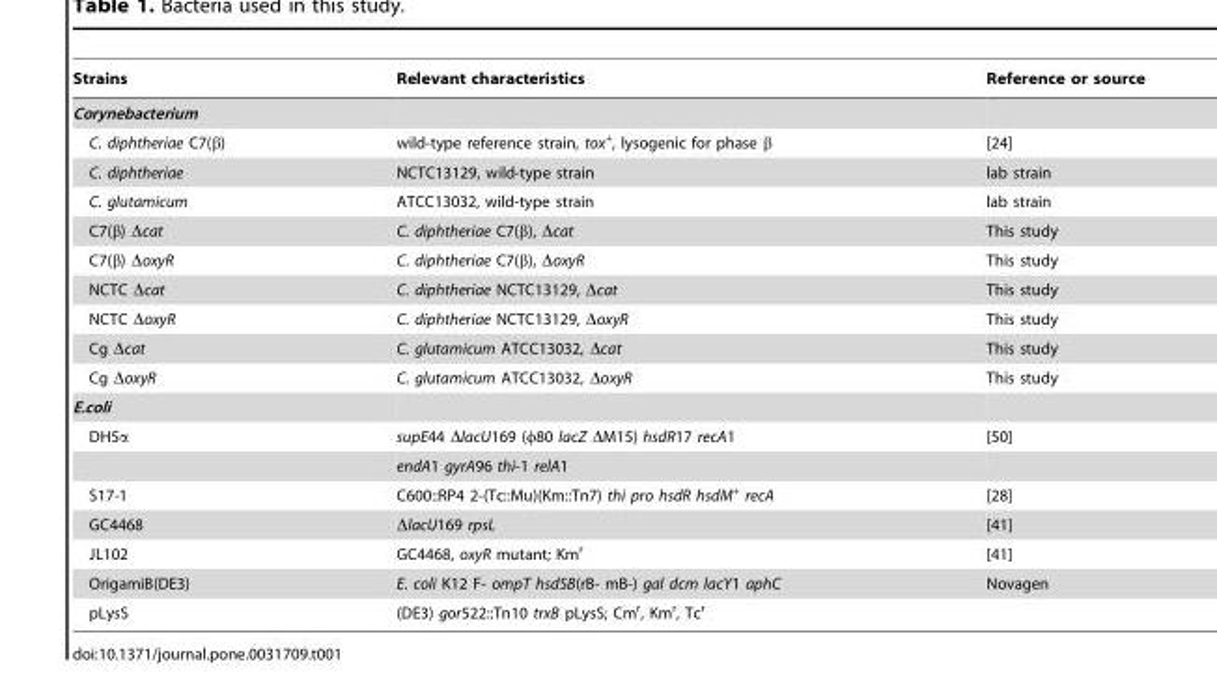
<table><thead><tr><td>Strains</td><td>Relevant characteristics</td><td>Reference or source</td></tr></thead><tbody><tr><td colspan="3">Corynebacterium</td></tr><tr><td>C. diphtheriae C7(β)</td><td>wild-type reference strain, tox<sup>+</sup>, lysogenic for phase β</td><td>[24]</td></tr><tr><td>C. diphtheriae</td><td>NCTC13129, wild-type strain</td><td>lab strain</td></tr><tr><td>C. glutamicum</td><td>ATCC13032, wild-type strain</td><td>lab strain</td></tr><tr><td>C7(β) Δcat</td><td>C. diphtheriae C7(β), Δcat</td><td>This study</td></tr><tr><td>C7(β) ΔoxyR</td><td>C. diphtheriae C7(β), ΔoxyR</td><td>This study</td></tr><tr><td>NCTC Δcat</td><td>C. diphtheriae NCTC13129, Δcat</td><td>This study</td></tr><tr><td>NCTC ΔoxyR</td><td>C. diphtheriae NCTC13129, ΔoxyR</td><td>This study</td></tr><tr><td>Cg Δcat</td><td>C. glutamicum ATCC13032, Δcat</td><td>This study</td></tr><tr><td>Cg ΔoxyR</td><td>C. glutamicum ATCC13032, ΔoxyR</td><td>This study</td></tr><tr><td colspan="3">E.coli</td></tr><tr><td rowspan="2">DH5α</td><td>supE44 ΔlacU169 (φ80 lacZ ΔM15) hsdR17 recA1</td><td>[50]</td></tr><tr><td>endA1 gyrA96 thi-1 relA1</td><td></td></tr><tr><td>S17-1</td><td>C600::RP4 2-(Tc::Mu)(Km::Tn7) thi pro hsdR hsdM<sup>+</sup> recA</td><td>[28]</td></tr><tr><td>GC4468</td><td>ΔlacU169 rpsL</td><td>[41]</td></tr><tr><td>JL102</td><td>GC4468, oxyR mutant; Km<sup>r</sup></td><td>[41]</td></tr><tr><td>OrigamiB(DE3)</td><td>E. coli K12 F- ompT hsdSB(rB- mB-) gal dcm lacY1 aphC</td><td>Novagen</td></tr><tr><td>pLysS</td><td>(DE3) gor522::Tn10 trxB pLysS; Cm<sup>r</sup>, Km<sup>r</sup>, Tc<sup>r</sup></td><td></td></tr></tbody></table>